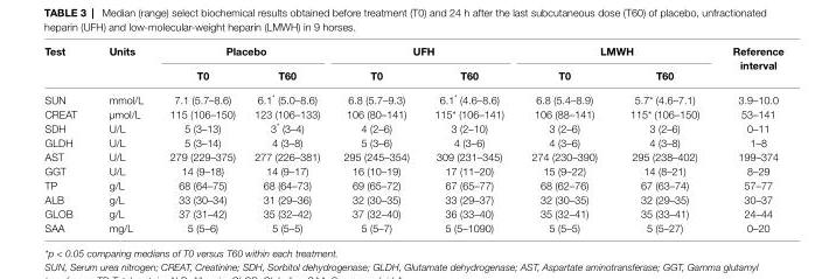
<table><thead><tr><td rowspan="2">Test</td><td rowspan="2">units</td><td colspan="2">Placebo</td><td colspan="2">uFh</td><td colspan="2">lMWh</td><td rowspan="2">reference interval</td></tr><tr><td>T0</td><td>T60</td><td>T0</td><td>T60</td><td>T0</td><td>T60</td></tr></thead><tbody><tr><td>SUN</td><td>mmol/L</td><td>7.1 (5.7–8.6)</td><td>6.1* (5.0–8.6)</td><td>6.8 (5.7–9.3)</td><td>6.1* (4.6–8.6)</td><td>6.8 (5.4–8.9)</td><td>5.7* (4.6–7.1)</td><td>3.9–10.0</td></tr><tr><td>CREAT</td><td>μmol/L</td><td>115 (106–150)</td><td>123 (106–133)</td><td>106 (80–141)</td><td>115* (106–141)</td><td>106 (88–141)</td><td>115* (106–150)</td><td>53–141</td></tr><tr><td>SDH</td><td>U/L</td><td>5 (3–13)</td><td>3* (3–4)</td><td>4 (2–6)</td><td>3 (2–10)</td><td>3 (2–6)</td><td>3 (2–6)</td><td>0–11</td></tr><tr><td>GLDH</td><td>U/L</td><td>5 (3–14)</td><td>4 (3–8)</td><td>5 (3–6)</td><td>4 (3–6)</td><td>4 (3–6)</td><td>4 (3–8)</td><td>1–8</td></tr><tr><td>AST</td><td>U/L</td><td>279 (229–375)</td><td>277 (226–381)</td><td>295 (245–354)</td><td>309 (231–345)</td><td>274 (230–390)</td><td>295 (238–402)</td><td>199–374</td></tr><tr><td>GGT</td><td>U/L</td><td>14 (9–18)</td><td>14 (9–17)</td><td>16 (10–19)</td><td>17 (11–20)</td><td>15 (9–22)</td><td>14 (8–21)</td><td>8–29</td></tr><tr><td>TP</td><td>g/L</td><td>68 (64–75)</td><td>68 (64–73)</td><td>69 (65–72)</td><td>67 (65–77)</td><td>68 (62–76)</td><td>67 (63–74)</td><td>57–77</td></tr><tr><td>ALB</td><td>g/L</td><td>33 (30–34)</td><td>31 (29–36)</td><td>32 (30–35)</td><td>33 (29–37)</td><td>32 (30–35)</td><td>32 (29–35)</td><td>30–37</td></tr><tr><td>GLOB</td><td>g/L</td><td>37 (31–42)</td><td>35 (32–42)</td><td>37 (32–40)</td><td>36 (33–40)</td><td>35 (32–41)</td><td>35 (33–41)</td><td>24–44</td></tr><tr><td>SAA</td><td>mg/L</td><td>5 (5–6)</td><td>5 (5–5)</td><td>5 (5–7)</td><td>5 (5–1090)</td><td>5 (5–5)</td><td>5 (5–27)</td><td>0–20</td></tr></tbody></table>